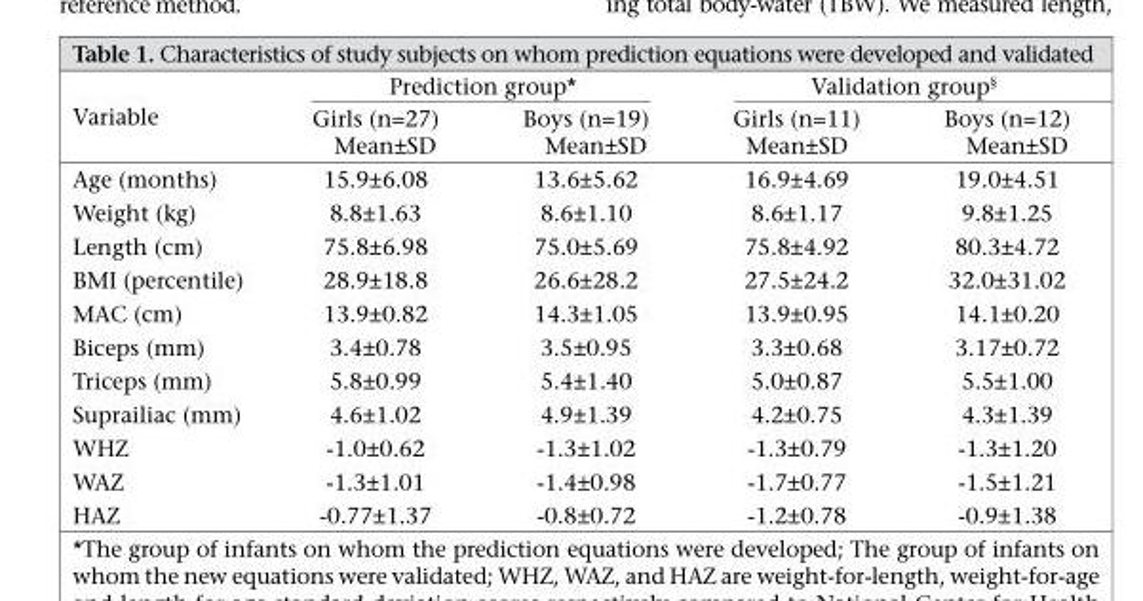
<table><thead><tr><td rowspan="2">Variable</td><td colspan="2">Prediction group*</td><td colspan="2">Validation group§</td></tr><tr><td>Girls (n=27) Mean±SD</td><td>Boys (n=19) Mean±SD</td><td>Girls (n=11) Mean±SD</td><td>Boys (n=12) Mean±SD</td></tr></thead><tbody><tr><td>Age (months)</td><td>15.9±6.08</td><td>13.6±5.62</td><td>16.9±4.69</td><td>19.0±4.51</td></tr><tr><td>Weight (kg)</td><td>8.8±1.63</td><td>8.6±1.10</td><td>8.6±1.17</td><td>9.8±1.25</td></tr><tr><td>Length (cm)</td><td>75.8±6.98</td><td>75.0±5.69</td><td>75.8±4.92</td><td>80.3±4.72</td></tr><tr><td>BMI (percentile)</td><td>28.9±18.8</td><td>26.6±28.2</td><td>27.5±24.2</td><td>32.0±31.02</td></tr><tr><td>MAC (cm)</td><td>13.9±0.82</td><td>14.3±1.05</td><td>13.9±0.95</td><td>14.1±0.20</td></tr><tr><td>Biceps (mm)</td><td>3.4±0.78</td><td>3.5±0.95</td><td>3.3±0.68</td><td>3.17±0.72</td></tr><tr><td>Triceps (mm)</td><td>5.8±0.99</td><td>5.4±1.40</td><td>5.0±0.87</td><td>5.5±1.00</td></tr><tr><td>Suprailiac (mm)</td><td>4.6±1.02</td><td>4.9±1.39</td><td>4.2±0.75</td><td>4.3±1.39</td></tr><tr><td>WHZ</td><td>-1.0±0.62</td><td>-1.3±1.02</td><td>-1.3±0.79</td><td>-1.3±1.20</td></tr><tr><td>WAZ</td><td>-1.3±1.01</td><td>-1.4±0.98</td><td>-1.7±0.77</td><td>-1.5±1.21</td></tr><tr><td>HAZ</td><td>-0.77±1.37</td><td>-0.8±0.72</td><td>-1.2±0.78</td><td>-0.9±1.38</td></tr></tbody></table>